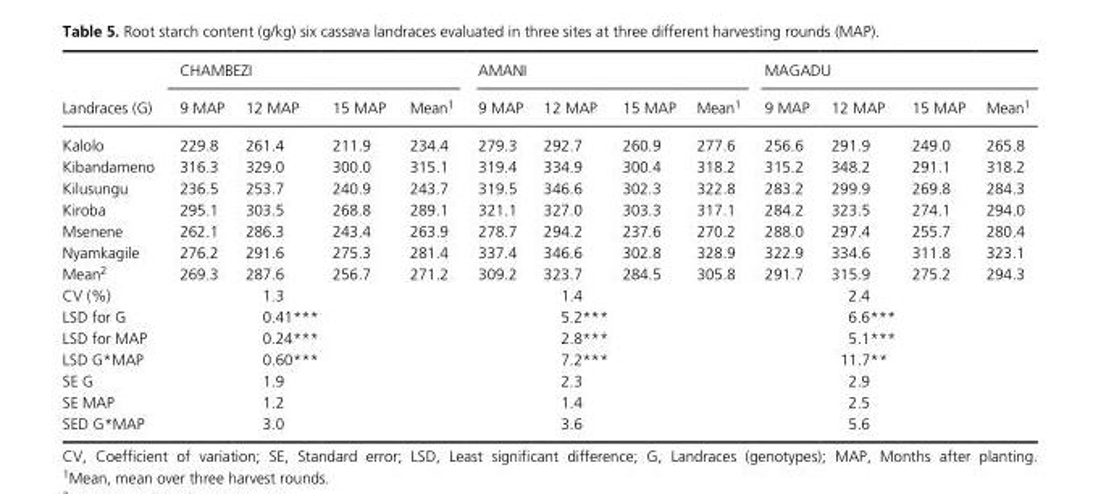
<table><thead><tr><td rowspan="2">Landraces (G)</td><td colspan="4">CHAMBEZI</td><td colspan="4">AMANI</td><td colspan="4">MAGADU</td></tr><tr><td>9 MAP</td><td>12 MAP</td><td>15 MAP</td><td>Mean1</td><td>9 MAP</td><td>12 MAP</td><td>15 MAP</td><td>Mean1</td><td>9 MAP</td><td>12 MAP</td><td>15 MAP</td><td>Mean1</td></tr></thead><tbody><tr><td>Kalolo</td><td>229.8</td><td>261.4</td><td>211.9</td><td>234.4</td><td>279.3</td><td>292.7</td><td>260.9</td><td>277.6</td><td>256.6</td><td>291.9</td><td>249.0</td><td>265.8</td></tr><tr><td>Kibandameno</td><td>316.3</td><td>329.0</td><td>300.0</td><td>315.1</td><td>319.4</td><td>334.9</td><td>300.4</td><td>318.2</td><td>315.2</td><td>348.2</td><td>291.1</td><td>318.2</td></tr><tr><td>Kilusungu</td><td>236.5</td><td>253.7</td><td>240.9</td><td>243.7</td><td>319.5</td><td>346.6</td><td>302.3</td><td>322.8</td><td>283.2</td><td>299.9</td><td>269.8</td><td>284.3</td></tr><tr><td>Kiroba</td><td>295.1</td><td>303.5</td><td>268.8</td><td>289.1</td><td>321.1</td><td>327.0</td><td>303.3</td><td>317.1</td><td>284.2</td><td>323.5</td><td>274.1</td><td>294.0</td></tr><tr><td>Msenene</td><td>262.1</td><td>286.3</td><td>243.4</td><td>263.9</td><td>278.7</td><td>294.2</td><td>237.6</td><td>270.2</td><td>288.0</td><td>297.4</td><td>255.7</td><td>280.4</td></tr><tr><td>Nyamkagile</td><td>276.2</td><td>291.6</td><td>275.3</td><td>281.4</td><td>337.4</td><td>346.6</td><td>302.8</td><td>328.9</td><td>322.9</td><td>334.6</td><td>311.8</td><td>323.1</td></tr><tr><td>Mean2</td><td>269.3</td><td>287.6</td><td>256.7</td><td>271.2</td><td>309.2</td><td>323.7</td><td>284.5</td><td>305.8</td><td>291.7</td><td>315.9</td><td>275.2</td><td>294.3</td></tr><tr><td>CV (%)</td><td></td><td>1.3</td><td></td><td></td><td></td><td>1.4</td><td></td><td></td><td></td><td>2.4</td><td></td><td></td></tr><tr><td>LSD for G</td><td></td><td>0.41***</td><td></td><td></td><td></td><td>5.2***</td><td></td><td></td><td></td><td>6.6***</td><td></td><td></td></tr><tr><td>LSD for MAP</td><td></td><td>0.24***</td><td></td><td></td><td></td><td>2.8***</td><td></td><td></td><td></td><td>5.1***</td><td></td><td></td></tr><tr><td>LSD G*MAP</td><td></td><td>0.60***</td><td></td><td></td><td></td><td>7.2***</td><td></td><td></td><td></td><td>11.7**</td><td></td><td></td></tr><tr><td>SE G</td><td></td><td>1.9</td><td></td><td></td><td></td><td>2.3</td><td></td><td></td><td></td><td>2.9</td><td></td><td></td></tr><tr><td>SE MAP</td><td></td><td>1.2</td><td></td><td></td><td></td><td>1.4</td><td></td><td></td><td></td><td>2.5</td><td></td><td></td></tr><tr><td>SED G*MAP</td><td></td><td>3.0</td><td></td><td></td><td></td><td>3.6</td><td></td><td></td><td></td><td>5.6</td><td></td><td></td></tr></tbody></table>